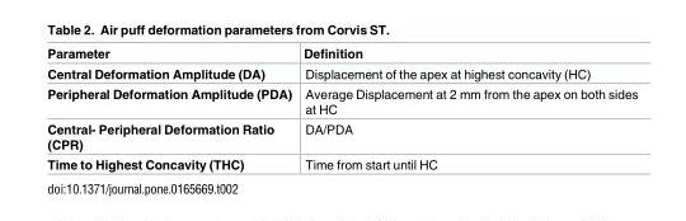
<table><thead><tr><td>Parameter</td><td>Definition</td></tr></thead><tbody><tr><td>Central Deformation Amplitude (DA)</td><td>Displacement of the apex at highest concavity (HC)</td></tr><tr><td>Peripheral Deformation Amplitude (PDA)</td><td>Average Displacement at 2 mm from the apex on both sides at HC</td></tr><tr><td>Central- Peripheral Deformation Ratio (CPR)</td><td>DA/PDA</td></tr><tr><td>Time to Highest Concavity (THC)</td><td>Time from start until HC</td></tr></tbody></table>